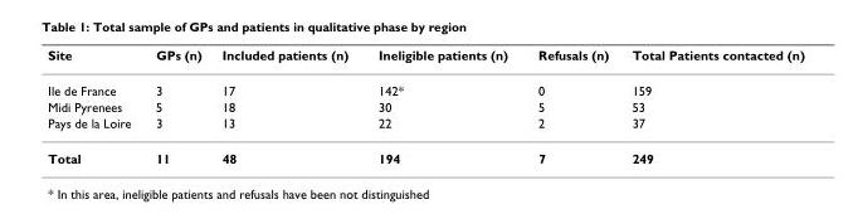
<table><thead><tr><td>Site</td><td>GPs (n)</td><td>Included patients (n)</td><td>Ineligible patients (n)</td><td>Refusals (n)</td><td>Total Patients contacted (n)</td></tr></thead><tbody><tr><td>Ile de France</td><td>3</td><td>17</td><td>142*</td><td>0</td><td>159</td></tr><tr><td>Midi Pyrenees</td><td>5</td><td>18</td><td>30</td><td>5</td><td>53</td></tr><tr><td>Pays de la Loire</td><td>3</td><td>13</td><td>22</td><td>2</td><td>37</td></tr><tr><td>Total</td><td>11</td><td>48</td><td>194</td><td>7</td><td>249</td></tr></tbody></table>